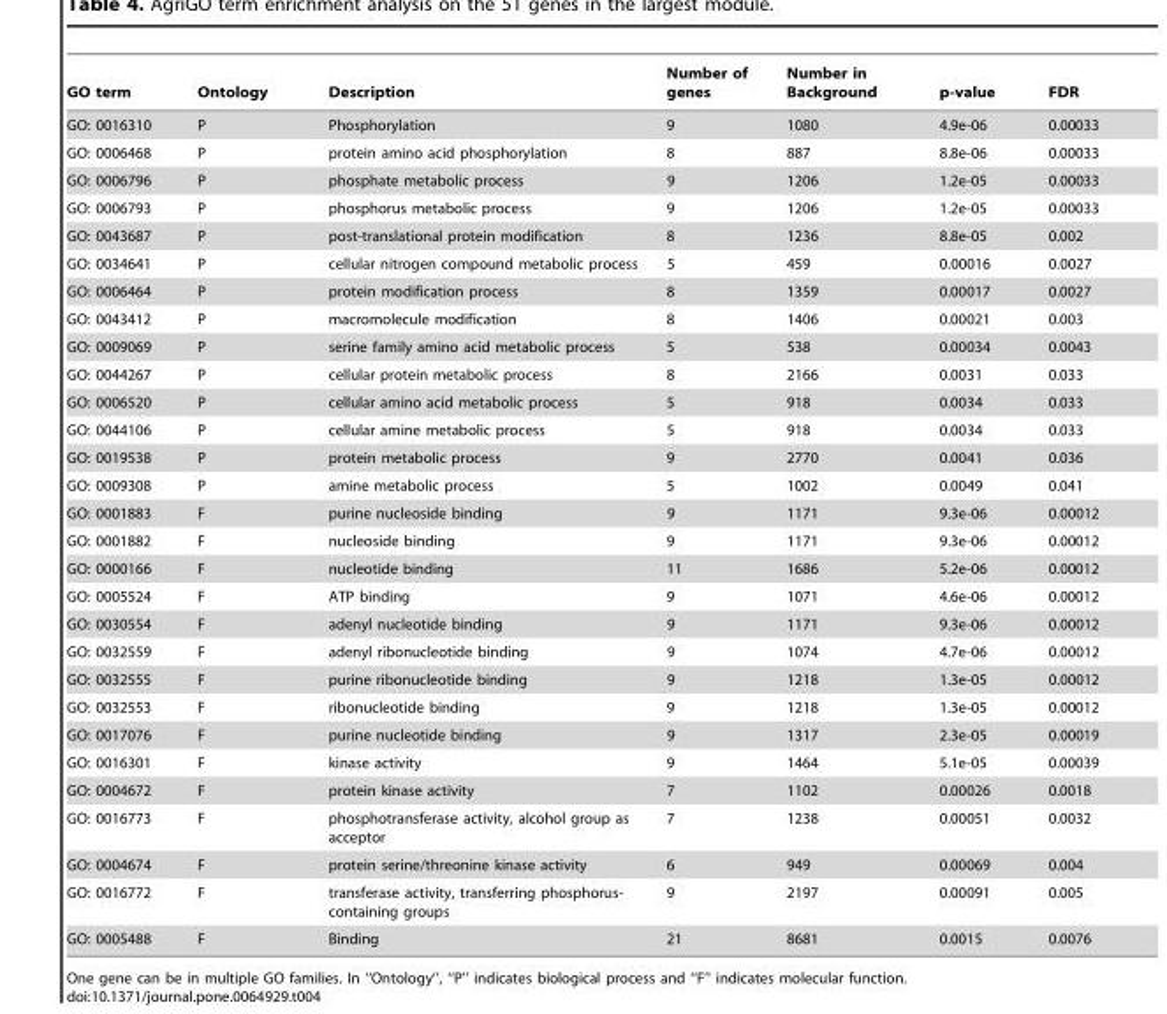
<table><thead><tr><td>GO term</td><td>Ontology</td><td>Description</td><td>Number of genes</td><td>Number in Background</td><td>p-value</td><td>FDR</td></tr></thead><tbody><tr><td>GO: 0016310</td><td>P</td><td>Phosphorylation</td><td>9</td><td>1080</td><td>4.9e-06</td><td>0.00033</td></tr><tr><td>GO: 0006468</td><td>P</td><td>protein amino acid phosphorylation</td><td>8</td><td>887</td><td>8.8e-06</td><td>0.00033</td></tr><tr><td>GO: 0006796</td><td>P</td><td>phosphate metabolic process</td><td>9</td><td>1206</td><td>1.2e-05</td><td>0.00033</td></tr><tr><td>GO: 0006793</td><td>P</td><td>phosphorus metabolic process</td><td>9</td><td>1206</td><td>1.2e-05</td><td>0.00033</td></tr><tr><td>GO: 0043687</td><td>P</td><td>post-translational protein modification</td><td>8</td><td>1236</td><td>8.8e-05</td><td>0.002</td></tr><tr><td>GO: 0034641</td><td>P</td><td>cellular nitrogen compound metabolic process</td><td>5</td><td>459</td><td>0.00016</td><td>0.0027</td></tr><tr><td>GO: 0006464</td><td>P</td><td>protein modification process</td><td>8</td><td>1359</td><td>0.00017</td><td>0.0027</td></tr><tr><td>GO: 0043412</td><td>P</td><td>macromolecule modification</td><td>8</td><td>1406</td><td>0.00021</td><td>0.003</td></tr><tr><td>GO: 0009069</td><td>P</td><td>serine family amino acid metabolic process</td><td>5</td><td>538</td><td>0.00034</td><td>0.0043</td></tr><tr><td>GO: 0044267</td><td>P</td><td>cellular protein metabolic process</td><td>8</td><td>2166</td><td>0.0031</td><td>0.033</td></tr><tr><td>GO: 0006520</td><td>P</td><td>cellular amino acid metabolic process</td><td>5</td><td>918</td><td>0.0034</td><td>0.033</td></tr><tr><td>GO: 0044106</td><td>P</td><td>cellular amine metabolic process</td><td>5</td><td>918</td><td>0.0034</td><td>0.033</td></tr><tr><td>GO: 0019538</td><td>P</td><td>protein metabolic process</td><td>9</td><td>2770</td><td>0.0041</td><td>0.036</td></tr><tr><td>GO: 0009308</td><td>P</td><td>amine metabolic process</td><td>5</td><td>1002</td><td>0.0049</td><td>0.041</td></tr><tr><td>GO: 0001883</td><td>F</td><td>purine nucleoside binding</td><td>9</td><td>1171</td><td>9.3e-06</td><td>0.00012</td></tr><tr><td>GO: 0001882</td><td>F</td><td>nucleoside binding</td><td>9</td><td>1171</td><td>9.3e-06</td><td>0.00012</td></tr><tr><td>GO: 0000166</td><td>F</td><td>nucleotide binding</td><td>11</td><td>1686</td><td>5.2e-06</td><td>0.00012</td></tr><tr><td>GO: 0005524</td><td>F</td><td>ATP binding</td><td>9</td><td>1071</td><td>4.6e-06</td><td>0.00012</td></tr><tr><td>GO: 0030554</td><td>F</td><td>adenyl nucleotide binding</td><td>9</td><td>1171</td><td>9.3e-06</td><td>0.00012</td></tr><tr><td>GO: 0032559</td><td>F</td><td>adenyl ribonucleotide binding</td><td>9</td><td>1074</td><td>4.7e-06</td><td>0.00012</td></tr><tr><td>GO: 0032555</td><td>F</td><td>purine ribonucleotide binding</td><td>9</td><td>1218</td><td>1.3e-05</td><td>0.00012</td></tr><tr><td>GO: 0032553</td><td>F</td><td>ribonucleotide binding</td><td>9</td><td>1218</td><td>1.3e-05</td><td>0.00012</td></tr><tr><td>GO: 0017076</td><td>F</td><td>purine nucleotide binding</td><td>9</td><td>1317</td><td>2.3e-05</td><td>0.00019</td></tr><tr><td>GO: 0016301</td><td>F</td><td>kinase activity</td><td>9</td><td>1464</td><td>5.1e-05</td><td>0.00039</td></tr><tr><td>GO: 0004672</td><td>F</td><td>protein kinase activity</td><td>7</td><td>1102</td><td>0.00026</td><td>0.0018</td></tr><tr><td>GO: 0016773</td><td>F</td><td>phosphotransferase activity, alcohol group as acceptor</td><td>7</td><td>1238</td><td>0.00051</td><td>0.0032</td></tr><tr><td>GO: 0004674</td><td>F</td><td>protein serine/threonine kinase activity</td><td>6</td><td>949</td><td>0.00069</td><td>0.004</td></tr><tr><td>GO: 0016772</td><td>F</td><td>transferase activity, transferring phosphorus- containing groups</td><td>9</td><td>2197</td><td>0.00091</td><td>0.005</td></tr><tr><td>GO: 0005488</td><td>F</td><td>Binding</td><td>21</td><td>8681</td><td>0.0015</td><td>0.0076</td></tr></tbody></table>